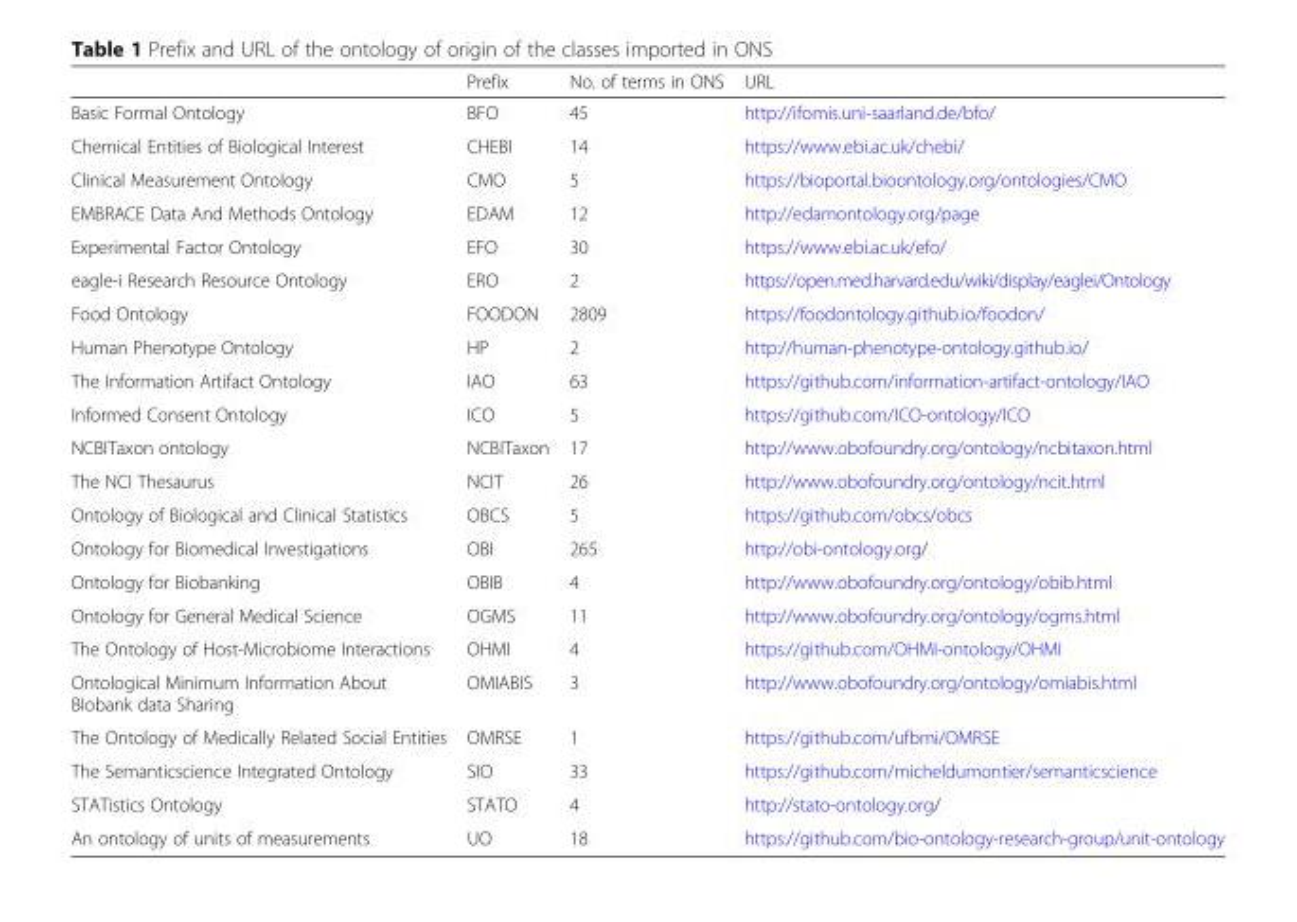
<table><thead><tr><td></td><td>Prefix</td><td>No. of terms in ONS</td><td>URL</td></tr></thead><tbody><tr><td>Basic Formal Ontology</td><td>BFO</td><td>45</td><td>http://ifomis.uni-saarland.de/bfo/</td></tr><tr><td>Chemical Entities of Biological Interest</td><td>CHEBI</td><td>14</td><td>https://www.ebi.ac.uk/chebi/</td></tr><tr><td>Clinical Measurement Ontology</td><td>CMO</td><td>5</td><td>https://bioportal.bioontology.org/ontologies/CMO</td></tr><tr><td>EMBRACE Data And Methods Ontology</td><td>EDAM</td><td>12</td><td>http://edamontology.org/page</td></tr><tr><td>Experimental Factor Ontology</td><td>EFO</td><td>30</td><td>https://www.ebi.ac.uk/efo/</td></tr><tr><td>eagle-i Research Resource Ontology</td><td>ERO</td><td>2</td><td>https://open.med.harvard.edu/wiki/display/eaglei/Ontology</td></tr><tr><td>Food Ontology</td><td>FOODON</td><td>2809</td><td>https://foodontology.github.io/foodon/</td></tr><tr><td>Human Phenotype Ontology</td><td>HP</td><td>2</td><td>http://human-phenotype-ontology.github.io/</td></tr><tr><td>The Information Artifact Ontology</td><td>IAO</td><td>63</td><td>https://github.com/information-artifact-ontology/IAO</td></tr><tr><td>Informed Consent Ontology</td><td>ICO</td><td>5</td><td>https://github.com/ICO-ontology/ICO</td></tr><tr><td>NCBITaxon ontology</td><td>NCBITaxon</td><td>17</td><td>http://www.obofoundry.org/ontology/ncbitaxon.html</td></tr><tr><td>The NCI Thesaurus</td><td>NCIT</td><td>26</td><td>http://www.obofoundry.org/ontology/ncit.html</td></tr><tr><td>Ontology of Biological and Clinical Statistics</td><td>OBCS</td><td>5</td><td>https://github.com/obcs/obcs</td></tr><tr><td>Ontology for Biomedical Investigations</td><td>OBI</td><td>265</td><td>http://obi-ontology.org/</td></tr><tr><td>Ontology for Biobanking</td><td>OBIB</td><td>4</td><td>http://www.obofoundry.org/ontology/obib.html</td></tr><tr><td>Ontology for General Medical Science</td><td>OGMS</td><td>11</td><td>http://www.obofoundry.org/ontology/ogms.html</td></tr><tr><td>The Ontology of Host-Microbiome Interactions</td><td>OHMI</td><td>4</td><td>https://github.com/OHMI-ontology/OHMI</td></tr><tr><td>Ontological Minimum Information About BIobank data Sharing</td><td>OMIABIS</td><td>3</td><td>http://www.obofoundry.org/ontology/omiabis.html</td></tr><tr><td>The Ontology of Medically Related Social Entities</td><td>OMRSE</td><td>1</td><td>https://github.com/ufbmi/OMRSE</td></tr><tr><td>The Semanticscience Integrated Ontology</td><td>SIO</td><td>33</td><td>https://github.com/micheldumontier/semanticscience</td></tr><tr><td>STATistics Ontology</td><td>STATO</td><td>4</td><td>http://stato-ontology.org/</td></tr><tr><td>An ontology of units of measurements</td><td>UO</td><td>18</td><td>https://github.com/bio-ontology-research-group/unit-ontology</td></tr></tbody></table>